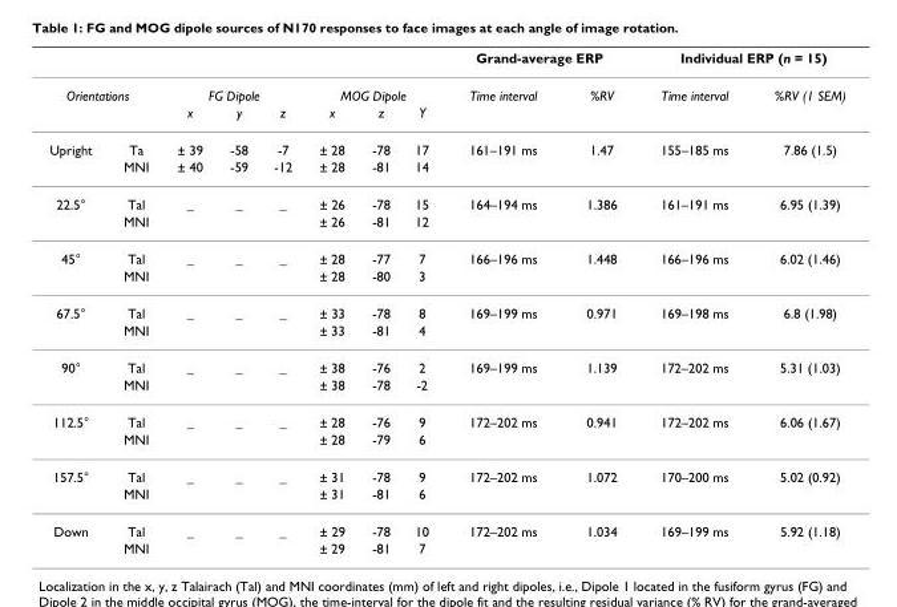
<table><thead><tr><td></td><td></td><td></td><td></td><td></td><td></td><td></td><td></td><td colspan="2">Grand-average ERP</td><td colspan="2">Individual ERP (n = 15)</td></tr><tr><td colspan="2">Orientations</td><td colspan="3">FG Dipole</td><td colspan="3">MOG Dipole</td><td>Time interval</td><td>%RV</td><td>Time interval</td><td>%RV (1 SEM)</td></tr></thead><tbody><tr><td></td><td></td><td>x</td><td>y</td><td>z</td><td>x</td><td>z</td><td>Y</td><td></td><td></td><td></td><td></td></tr><tr><td rowspan="2">Upright</td><td>Ta</td><td>± 39</td><td>-58</td><td>-7</td><td>± 28</td><td>-78</td><td>17</td><td>161–191 ms</td><td>1.47</td><td>155–185 ms</td><td>7.86 (1.5)</td></tr><tr><td>MNI</td><td>± 40</td><td>-59</td><td>-12</td><td>± 28</td><td>-81</td><td>14</td><td></td><td></td><td></td><td></td></tr><tr><td rowspan="2">22.5°</td><td>Tal</td><td>_</td><td>_</td><td>_</td><td>± 26</td><td>-78</td><td>15</td><td>164–194 ms</td><td>1.386</td><td>161–191 ms</td><td>6.95 (1.39)</td></tr><tr><td>MNI</td><td></td><td></td><td></td><td>± 26</td><td>-81</td><td>12</td><td></td><td></td><td></td><td></td></tr><tr><td rowspan="2">45°</td><td>Tal</td><td>_</td><td>_</td><td>_</td><td>± 28</td><td>-77</td><td>7</td><td>166–196 ms</td><td>1.448</td><td>166–196 ms</td><td>6.02 (1.46)</td></tr><tr><td>MNI</td><td></td><td></td><td></td><td>± 28</td><td>-80</td><td>3</td><td></td><td></td><td></td><td></td></tr><tr><td rowspan="2">67.5°</td><td>Tal</td><td>_</td><td>_</td><td>_</td><td>± 33</td><td>-78</td><td>8</td><td>169–199 ms</td><td>0.971</td><td>169–198 ms</td><td>6.8 (1.98)</td></tr><tr><td>MNI</td><td></td><td></td><td></td><td>± 33</td><td>-81</td><td>4</td><td></td><td></td><td></td><td></td></tr><tr><td rowspan="2">90°</td><td>Tal</td><td>_</td><td>_</td><td>_</td><td>± 38</td><td>-76</td><td>2</td><td>169–199 ms</td><td>1.139</td><td>172–202 ms</td><td>5.31 (1.03)</td></tr><tr><td>MNI</td><td></td><td></td><td></td><td>± 38</td><td>-78</td><td>-2</td><td></td><td></td><td></td><td></td></tr><tr><td rowspan="2">112.5°</td><td>Tal</td><td>_</td><td>_</td><td>_</td><td>± 28</td><td>-76</td><td>9</td><td>172–202 ms</td><td>0.941</td><td>172–202 ms</td><td>6.06 (1.67)</td></tr><tr><td>MNI</td><td></td><td></td><td></td><td>± 28</td><td>-79</td><td>6</td><td></td><td></td><td></td><td></td></tr><tr><td rowspan="2">157.5°</td><td>Tal</td><td>_</td><td>_</td><td>_</td><td>± 31</td><td>-78</td><td>9</td><td>172–202 ms</td><td>1.072</td><td>170–200 ms</td><td>5.02 (0.92)</td></tr><tr><td>MNI</td><td></td><td></td><td></td><td>± 31</td><td>-81</td><td>6</td><td></td><td></td><td></td><td></td></tr><tr><td rowspan="2">Down</td><td>Tal</td><td>_</td><td>_</td><td>_</td><td>± 29</td><td>-78</td><td>10</td><td>172–202 ms</td><td>1.034</td><td>169–199 ms</td><td>5.92 (1.18)</td></tr><tr><td>MNI</td><td></td><td></td><td></td><td>± 29</td><td>-81</td><td>7</td><td></td><td></td><td></td><td></td></tr></tbody></table>